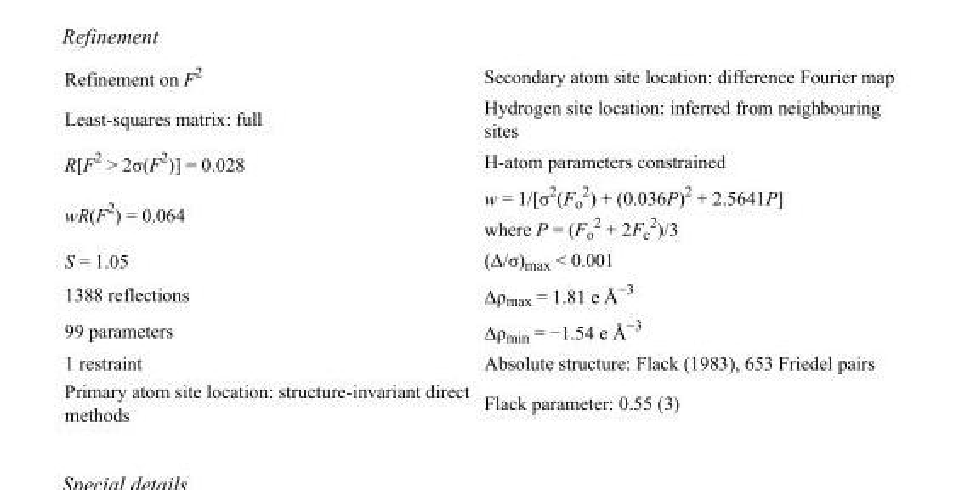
<table><tbody><tr><td>Refinement on F<sup>2</sup></td><td>Secondary atom site location: difference Fourier map</td></tr><tr><td>Least-squares matrix: full</td><td>Hydrogen site location: inferred from neighbouring sites</td></tr><tr><td>R[F<sup>2</sup> &gt; 2σ(F<sup>2</sup>)] = 0.028</td><td>H-atom parameters constrained</td></tr><tr><td>wR(F<sup>2</sup>) = 0.064</td><td>w = 1/[σ<sup>2</sup>(F<sub>o</sub> <sup>2</sup>) + (0.036P)<sup>2</sup> + 2.5641P] where P = (F<sub>o</sub> <sup>2</sup> + 2F<sub>c</sub> <sup>2</sup>)/3</td></tr><tr><td>S = 1.05</td><td>(Δ/σ)<sub>max</sub> &lt; 0.001</td></tr><tr><td>1388 reflections</td><td>Δρ<sub>max</sub> = 1.81 e Å<sup>−3</sup></td></tr><tr><td>99 parameters</td><td>Δρ<sub>min</sub> = −1.54 e Å<sup>−3</sup></td></tr><tr><td>1 restraint</td><td>Absolute structure: Flack (1983), 653 Friedel pairs</td></tr><tr><td>Primary atom site location: structure-invariant direct methods</td><td>Flack parameter: 0.55 (3)</td></tr></tbody></table>